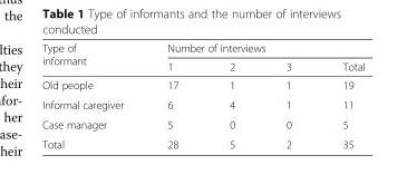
<table><thead><tr><td rowspan="2">Type of informant</td><td colspan="4">Number of interviews</td></tr><tr><td>1</td><td>2</td><td>3</td><td>Total</td></tr></thead><tbody><tr><td>Old people</td><td>17</td><td>1</td><td>1</td><td>19</td></tr><tr><td>Informal caregiver</td><td>6</td><td>4</td><td>1</td><td>11</td></tr><tr><td>Case manager</td><td>5</td><td>0</td><td>0</td><td>5</td></tr><tr><td>Total</td><td>28</td><td>5</td><td>2</td><td>35</td></tr></tbody></table>